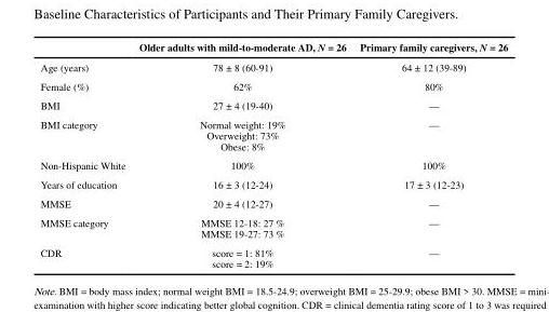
<table><thead><tr><td></td><td>Older adults with mild-to-moderate AD, N = 26</td><td>Primary family caregivers, N = 26</td></tr></thead><tbody><tr><td>Age (years)</td><td>78 ± 8 (60-91)</td><td>64 ± 12 (39-89)</td></tr><tr><td>Female (%)</td><td>62%</td><td>80%</td></tr><tr><td>BMI</td><td>27 ± 4 (19-40)</td><td>—</td></tr><tr><td>BMI category</td><td>Normal weight: 19% Overweight: 73% Obese: 8%</td><td>—</td></tr><tr><td>Non-Hispanic White</td><td>100%</td><td>100%</td></tr><tr><td>Years of education</td><td>16 ± 3 (12-24)</td><td>17 ± 3 (12-23)</td></tr><tr><td>MMSE</td><td>20 ± 4 (12-27)</td><td>—</td></tr><tr><td>MMSE category</td><td>MMSE 12-18: 27 % MMSE 19-27: 73 %</td><td>—</td></tr><tr><td>CDR</td><td>score = 1: 81% score = 2: 19%</td><td>—</td></tr></tbody></table>